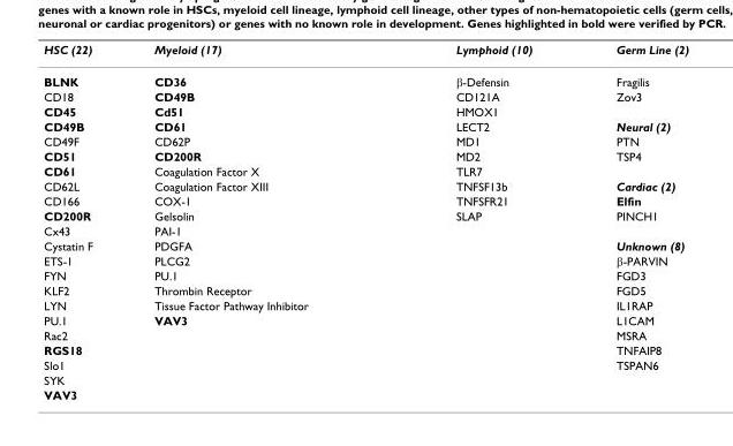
<table><thead><tr><td>HSC (22)</td><td>Myeloid (17)</td><td>Lymphoid (10)</td><td>Germ Line (2)</td></tr></thead><tbody><tr><td>BLNK</td><td>CD36</td><td>β-Defensin</td><td>Fragilis</td></tr><tr><td>CD18</td><td>CD49B</td><td>CD121A</td><td>Zov3</td></tr><tr><td>CD45</td><td>Cd51</td><td>HMOX1</td><td></td></tr><tr><td>CD49B</td><td>CD61</td><td>LECT2</td><td>Neural (2)</td></tr><tr><td>CD49F</td><td>CD62P</td><td>MD1</td><td>PTN</td></tr><tr><td>CD51</td><td>CD200R</td><td>MD2</td><td>TSP4</td></tr><tr><td>CD61</td><td>Coagulation Factor X</td><td>TLR7</td><td></td></tr><tr><td>CD62L</td><td>Coagulation Factor XIII</td><td>TNFSF13b</td><td>Cardiac (2)</td></tr><tr><td>CD166</td><td>COX-1</td><td>TNFSFR21</td><td>Elfin</td></tr><tr><td>CD200R</td><td>Gelsolin</td><td>SLAP</td><td>PINCH1</td></tr><tr><td>Cx43</td><td>PAI-1</td><td></td><td></td></tr><tr><td>Cystatin F</td><td>PDGFA</td><td></td><td>Unknown (8)</td></tr><tr><td>ETS-1</td><td>PLCG2</td><td></td><td>β-PARVIN</td></tr><tr><td>FYN</td><td>PU.1</td><td></td><td>FGD3</td></tr><tr><td>KLF2</td><td>Thrombin Receptor</td><td></td><td>FGD5</td></tr><tr><td>LYN</td><td>Tissue Factor Pathway Inhibitor</td><td></td><td>IL1RAP</td></tr><tr><td>PU.1</td><td>VAV3</td><td></td><td>L1CAM</td></tr><tr><td>Rac2</td><td></td><td></td><td>MSRA</td></tr><tr><td>RGS18</td><td></td><td></td><td>TNFAIP8</td></tr><tr><td>Slo1</td><td></td><td></td><td>TSPAN6</td></tr><tr><td colspan="4">SYK</td></tr><tr><td>VAV3</td><td></td><td></td><td></td></tr></tbody></table>